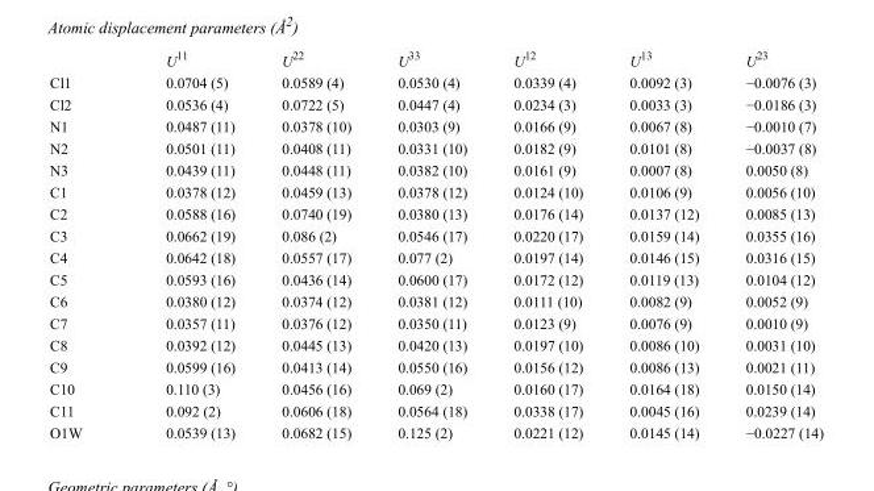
<table><thead><tr><td></td><td>U<sup>11</sup></td><td>U<sup>22</sup></td><td>U<sup>33</sup></td><td>U<sup>12</sup></td><td>U<sup>13</sup></td><td>U<sup>23</sup></td></tr></thead><tbody><tr><td>Cl1</td><td>0.0704 (5)</td><td>0.0589 (4)</td><td>0.0530 (4)</td><td>0.0339 (4)</td><td>0.0092 (3)</td><td>−0.0076 (3)</td></tr><tr><td>Cl2</td><td>0.0536 (4)</td><td>0.0722 (5)</td><td>0.0447 (4)</td><td>0.0234 (3)</td><td>0.0033 (3)</td><td>−0.0186 (3)</td></tr><tr><td>N1</td><td>0.0487 (11)</td><td>0.0378 (10)</td><td>0.0303 (9)</td><td>0.0166 (9)</td><td>0.0067 (8)</td><td>−0.0010 (7)</td></tr><tr><td>N2</td><td>0.0501 (11)</td><td>0.0408 (11)</td><td>0.0331 (10)</td><td>0.0182 (9)</td><td>0.0101 (8)</td><td>−0.0037 (8)</td></tr><tr><td>N3</td><td>0.0439 (11)</td><td>0.0448 (11)</td><td>0.0382 (10)</td><td>0.0161 (9)</td><td>0.0007 (8)</td><td>0.0050 (8)</td></tr><tr><td>C1</td><td>0.0378 (12)</td><td>0.0459 (13)</td><td>0.0378 (12)</td><td>0.0124 (10)</td><td>0.0106 (9)</td><td>0.0056 (10)</td></tr><tr><td>C2</td><td>0.0588 (16)</td><td>0.0740 (19)</td><td>0.0380 (13)</td><td>0.0176 (14)</td><td>0.0137 (12)</td><td>0.0085 (13)</td></tr><tr><td>C3</td><td>0.0662 (19)</td><td>0.086 (2)</td><td>0.0546 (17)</td><td>0.0220 (17)</td><td>0.0159 (14)</td><td>0.0355 (16)</td></tr><tr><td>C4</td><td>0.0642 (18)</td><td>0.0557 (17)</td><td>0.077 (2)</td><td>0.0197 (14)</td><td>0.0146 (15)</td><td>0.0316 (15)</td></tr><tr><td>C5</td><td>0.0593 (16)</td><td>0.0436 (14)</td><td>0.0600 (17)</td><td>0.0172 (12)</td><td>0.0119 (13)</td><td>0.0104 (12)</td></tr><tr><td>C6</td><td>0.0380 (12)</td><td>0.0374 (12)</td><td>0.0381 (12)</td><td>0.0111 (10)</td><td>0.0082 (9)</td><td>0.0052 (9)</td></tr><tr><td>C7</td><td>0.0357 (11)</td><td>0.0376 (12)</td><td>0.0350 (11)</td><td>0.0123 (9)</td><td>0.0076 (9)</td><td>0.0010 (9)</td></tr><tr><td>C8</td><td>0.0392 (12)</td><td>0.0445 (13)</td><td>0.0420 (13)</td><td>0.0197 (10)</td><td>0.0086 (10)</td><td>0.0031 (10)</td></tr><tr><td>C9</td><td>0.0599 (16)</td><td>0.0413 (14)</td><td>0.0550 (16)</td><td>0.0156 (12)</td><td>0.0086 (13)</td><td>0.0021 (11)</td></tr><tr><td>C10</td><td>0.110 (3)</td><td>0.0456 (16)</td><td>0.069 (2)</td><td>0.0160 (17)</td><td>0.0164 (18)</td><td>0.0150 (14)</td></tr><tr><td>C11</td><td>0.092 (2)</td><td>0.0606 (18)</td><td>0.0564 (18)</td><td>0.0338 (17)</td><td>0.0045 (16)</td><td>0.0239 (14)</td></tr><tr><td>O1W</td><td>0.0539 (13)</td><td>0.0682 (15)</td><td>0.125 (2)</td><td>0.0221 (12)</td><td>0.0145 (14)</td><td>−0.0227 (14)</td></tr></tbody></table>